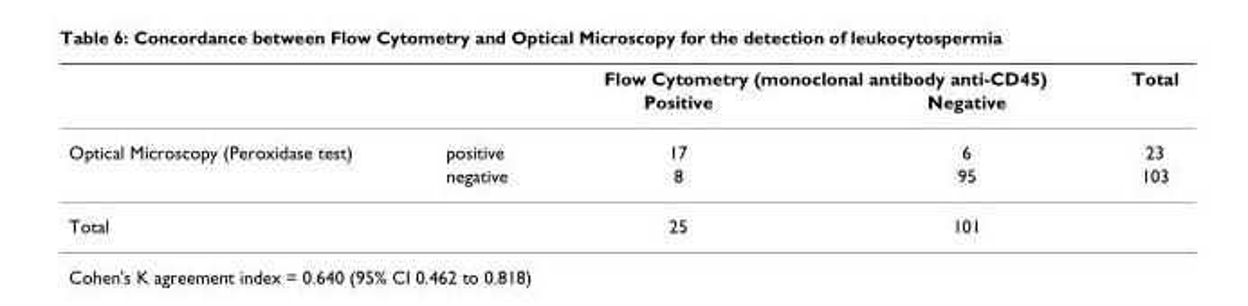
<table><thead><tr><td rowspan="2"></td><td rowspan="2"></td><td colspan="2">Flow Cytometry (monoclonal antibody anti-CD45)</td><td rowspan="2">Total</td></tr><tr><td>Positive</td><td>Negative</td></tr></thead><tbody><tr><td rowspan="2">Optical Microscopy (Peroxidase test)</td><td>positive</td><td>17</td><td>6</td><td>23</td></tr><tr><td>negative</td><td>8</td><td>95</td><td>103</td></tr><tr><td>Total</td><td></td><td>25</td><td>101</td><td></td></tr></tbody></table>